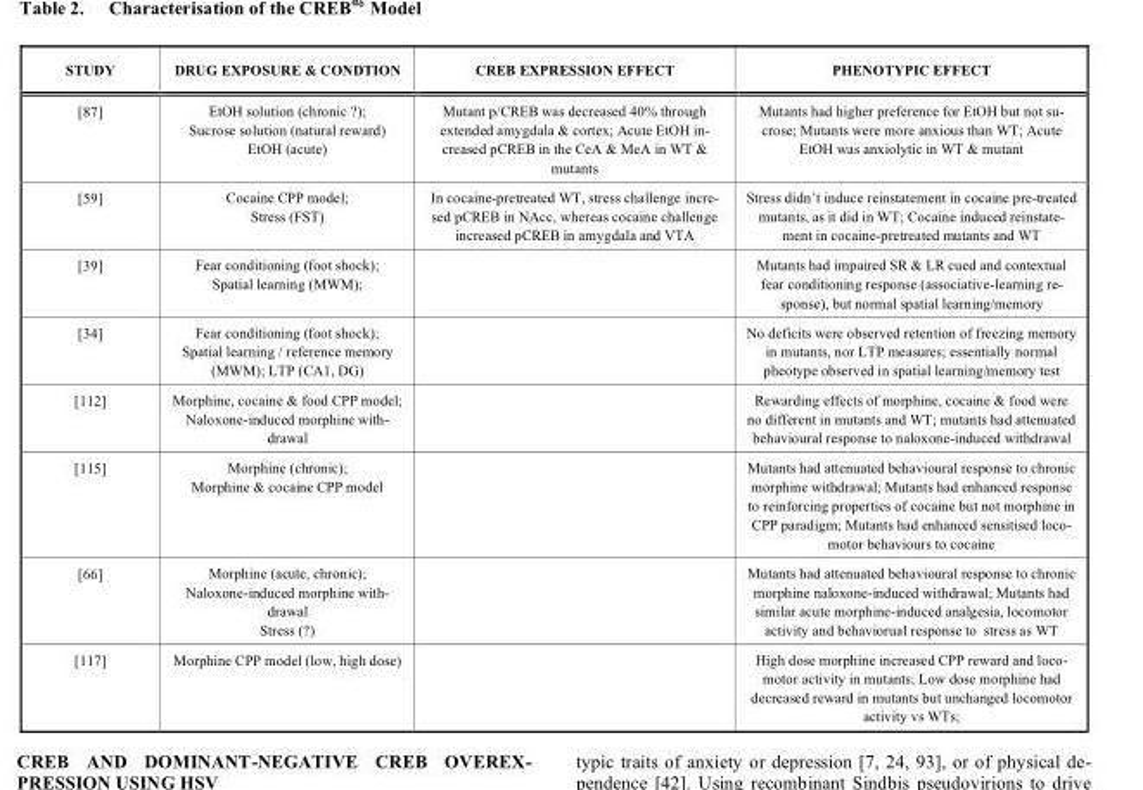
<table><thead><tr><td>STUDY</td><td>DRUG EXPOSURE &amp; CONDTION</td><td>CREB EXPRESSION EFFECT</td><td>PHENOTYPIC EFFECT</td></tr></thead><tbody><tr><td>[87]</td><td>EtOH solution (chronic ?); Sucrose solution (natural reward) EtOH (acute)</td><td>Mutant p/CREB was decreased 40% through extended amygdala &amp; cortex; Acute EtOH in- creased pCREB in the CeA &amp; MeA in WT &amp; mutants</td><td>Mutants had higher preference for EtOH but not su- crose; Mutants were more anxious than WT; Acute EtOH was anxiolytic in WT &amp; mutant</td></tr><tr><td>[59]</td><td>Cocaine CPP model; Stress (FST)</td><td>In cocaine-pretreated WT, stress challenge incre- sed pCREB in NAcc, whereas cocaine challenge increased pCREB in amygdala and VTA</td><td>Stress didn’t induce reinstatement in cocaine pre-treated mutants, as it did in WT; Cocaine induced reinstate- ment in cocaine-pretreated mutants and WT</td></tr><tr><td>[39]</td><td>Fear conditioning (foot shock); Spatial learning (MWM);</td><td></td><td>Mutants had impaired SR &amp; LR cued and contextual fear conditioning response (associative-learning re- sponse), but normal spatial learning/memory</td></tr><tr><td>[34]</td><td>Fear conditioning (foot shock); Spatial learning / reference memory (MWM); LTP (CA1, DG)</td><td></td><td>No deficits were observed retention of freezing memory in mutants, nor LTP measures; essentially normal pheotype observed in spatial learning/memory test</td></tr><tr><td>[112]</td><td>Morphine, cocaine &amp; food CPP model; Naloxone-induced morphine with- drawal</td><td></td><td>Rewarding effects of morphine, cocaine &amp; food were no different in mutants and WT; mutants had attenuated behavioural response to naloxone-induced withdrawal</td></tr><tr><td>[115]</td><td>Morphine (chronic); Morphine &amp; cocaine CPP model</td><td></td><td>Mutants had attenuated behavioural response to chronic morphine withdrawal; Mutants had enhanced response to reinforcing properties of cocaine but not morphine in CPP paradigm; Mutants had enhanced sensitised loco- motor behaviours to cocaine</td></tr><tr><td>[66]</td><td>Morphine (acute, chronic); Naloxone-induced morphine with- drawal Stress (?)</td><td></td><td>Mutants had attenuated behavioural response to chronic morphine naloxone-induced withdrawal; Mutants had similar acute morphine-induced analgesia, locomotor activity and behaviorual response to stress as WT</td></tr><tr><td>[117]</td><td>Morphine CPP model (low, high dose)</td><td></td><td>High dose morphine increased CPP reward and loco- motor activity in mutants; Low dose morphine had decreased reward in mutants but unchanged locomotor activity vs WTs;</td></tr></tbody></table>